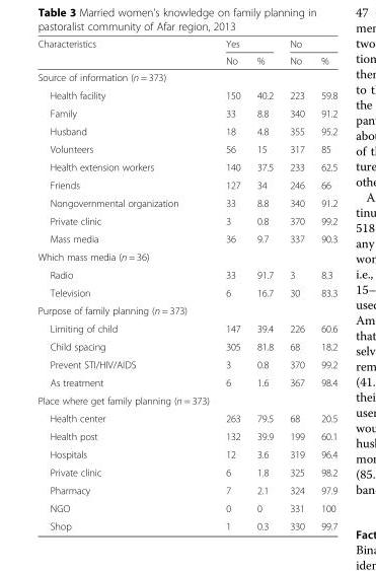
<table><thead><tr><td rowspan="2">Characteristics</td><td colspan="2">Yes</td><td colspan="2">No</td></tr><tr><td>No</td><td>%</td><td>No</td><td>%</td></tr></thead><tbody><tr><td colspan="5">Source of information (n = 373)</td></tr><tr><td>Health facility</td><td>150</td><td>40.2</td><td>223</td><td>59.8</td></tr><tr><td>Family</td><td>33</td><td>8.8</td><td>340</td><td>91.2</td></tr><tr><td>Husband</td><td>18</td><td>4.8</td><td>355</td><td>95.2</td></tr><tr><td>Volunteers</td><td>56</td><td>15</td><td>317</td><td>85</td></tr><tr><td>Health extension workers</td><td>140</td><td>37.5</td><td>233</td><td>62.5</td></tr><tr><td>Friends</td><td>127</td><td>34</td><td>246</td><td>66</td></tr><tr><td>Nongovernmental organization</td><td>33</td><td>8.8</td><td>340</td><td>91.2</td></tr><tr><td>Private clinic</td><td>3</td><td>0.8</td><td>370</td><td>99.2</td></tr><tr><td>Mass media</td><td>36</td><td>9.7</td><td>337</td><td>90.3</td></tr><tr><td colspan="5">Which mass media (n = 36)</td></tr><tr><td>Radio</td><td>33</td><td>91.7</td><td>3</td><td>8.3</td></tr><tr><td>Television</td><td>6</td><td>16.7</td><td>30</td><td>83.3</td></tr><tr><td colspan="5">Purpose of family planning (n = 373)</td></tr><tr><td>Limiting of child</td><td>147</td><td>39.4</td><td>226</td><td>60.6</td></tr><tr><td>Child spacing</td><td>305</td><td>81.8</td><td>68</td><td>18.2</td></tr><tr><td>Prevent STI/HIV/AIDS</td><td>3</td><td>0.8</td><td>370</td><td>99.2</td></tr><tr><td>As treatment</td><td>6</td><td>1.6</td><td>367</td><td>98.4</td></tr><tr><td colspan="5">Place where get family planning (n = 373)</td></tr><tr><td>Health center</td><td>263</td><td>79.5</td><td>68</td><td>20.5</td></tr><tr><td>Health post</td><td>132</td><td>39.9</td><td>199</td><td>60.1</td></tr><tr><td>Hospitals</td><td>12</td><td>3.6</td><td>319</td><td>96.4</td></tr><tr><td>Private clinic</td><td>6</td><td>1.8</td><td>325</td><td>98.2</td></tr><tr><td>Pharmacy</td><td>7</td><td>2.1</td><td>324</td><td>97.9</td></tr><tr><td>NGO</td><td>0</td><td>0</td><td>331</td><td>100</td></tr><tr><td>Shop</td><td>1</td><td>0.3</td><td>330</td><td>99.7</td></tr></tbody></table>